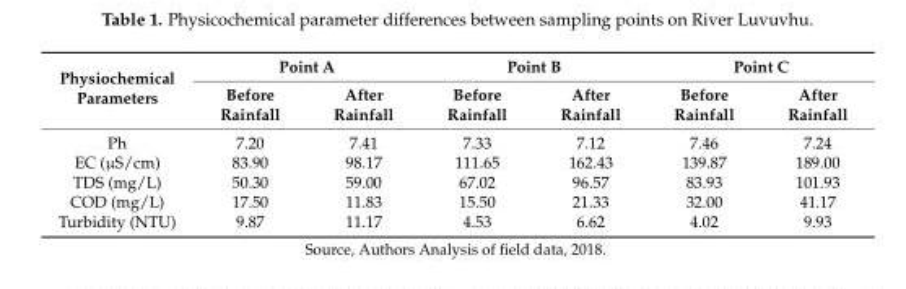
<table><thead><tr><td rowspan="2">Physiochemical Parameters</td><td colspan="2">Point A</td><td colspan="2">Point B</td><td colspan="2">Point C</td></tr><tr><td>Before Rainfall</td><td>After Rainfall</td><td>Before Rainfall</td><td>After Rainfall</td><td>Before Rainfall</td><td>After Rainfall</td></tr></thead><tbody><tr><td>Ph</td><td>7.20</td><td>7.41</td><td>7.33</td><td>7.12</td><td>7.46</td><td>7.24</td></tr><tr><td>EC (µS/cm)</td><td>83.90</td><td>98.17</td><td>111.65</td><td>162.43</td><td>139.87</td><td>189.00</td></tr><tr><td>TDS (mg/L)</td><td>50.30</td><td>59.00</td><td>67.02</td><td>96.57</td><td>83.93</td><td>101.93</td></tr><tr><td>COD (mg/L)</td><td>17.50</td><td>11.83</td><td>15.50</td><td>21.33</td><td>32.00</td><td>41.17</td></tr><tr><td>Turbidity (NTU)</td><td>9.87</td><td>11.17</td><td>4.53</td><td>6.62</td><td>4.02</td><td>9.93</td></tr></tbody></table>